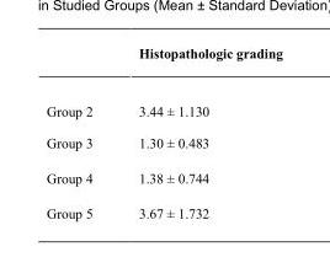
<table><thead><tr><td></td><td>Histopathologic grading</td></tr></thead><tbody><tr><td>Group 2</td><td>3.44 ± 1.130</td></tr><tr><td>Group 3</td><td>1.30 ± 0.483</td></tr><tr><td>Group 4</td><td>1.38 ± 0.744</td></tr><tr><td>Group 5</td><td>3.67 ± 1.732</td></tr></tbody></table>